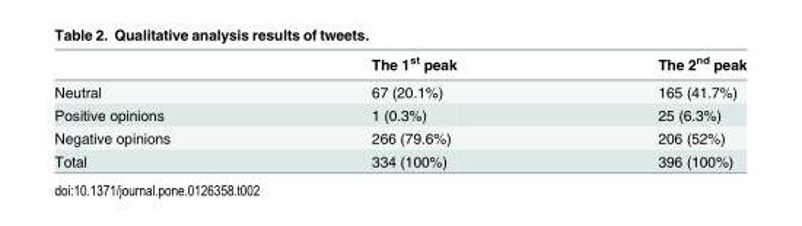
<table><thead><tr><td></td><td>The 1<sup>st</sup> peak</td><td>The 2<sup>nd</sup> peak</td></tr></thead><tbody><tr><td>Neutral</td><td>67 (20.1%)</td><td>165 (41.7%)</td></tr><tr><td>Positive opinions</td><td>1 (0.3%)</td><td>25 (6.3%)</td></tr><tr><td>Negative opinions</td><td>266 (79.6%)</td><td>206 (52%)</td></tr><tr><td>Total</td><td>334 (100%)</td><td>396 (100%)</td></tr></tbody></table>